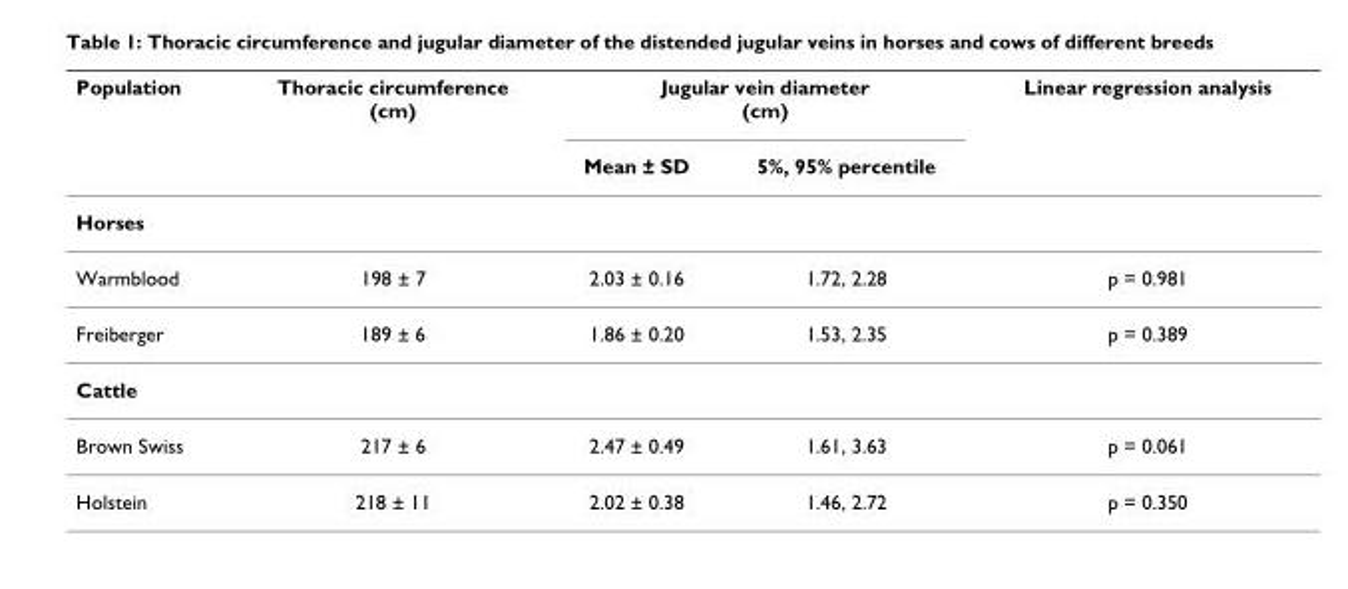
<table><thead><tr><td rowspan="2">Population</td><td rowspan="2">Thoracic circumference (cm)</td><td colspan="2">Jugular vein diameter (cm)</td><td rowspan="2">Linear regression analysis</td></tr><tr><td>Mean ± SD</td><td>5%, 95% percentile</td></tr></thead><tbody><tr><td colspan="5">Horses</td></tr><tr><td>Warmblood</td><td>198 ± 7</td><td>2.03 ± 0.16</td><td>1.72, 2.28</td><td>p = 0.981</td></tr><tr><td>Freiberger</td><td>189 ± 6</td><td>1.86 ± 0.20</td><td>1.53, 2.35</td><td>p = 0.389</td></tr><tr><td colspan="5">Cattle</td></tr><tr><td>Brown Swiss</td><td>217 ± 6</td><td>2.47 ± 0.49</td><td>1.61, 3.63</td><td>p = 0.061</td></tr><tr><td>Holstein</td><td>218 ± 11</td><td>2.02 ± 0.38</td><td>1.46, 2.72</td><td>p = 0.350</td></tr></tbody></table>